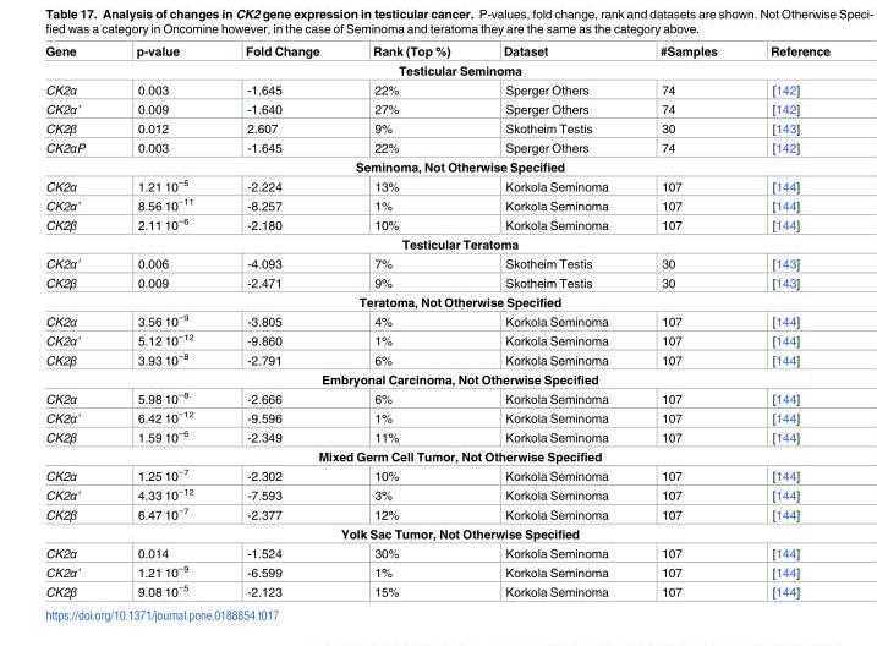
<table><thead><tr><td>Gene</td><td>p-value</td><td>Fold Change</td><td>Rank (Top %)</td><td>Dataset</td><td>#Samples</td><td>Reference</td></tr></thead><tbody><tr><td colspan="7">Testicular Seminoma</td></tr><tr><td>CK2α</td><td>0.003</td><td>-1.645</td><td>22%</td><td>Sperger Others</td><td>74</td><td>[142]</td></tr><tr><td>CK2α’</td><td>0.009</td><td>-1.640</td><td>27%</td><td>Sperger Others</td><td>74</td><td>[142]</td></tr><tr><td>CK2β</td><td>0.012</td><td>2.607</td><td>9%</td><td>Skotheim Testis</td><td>30</td><td>[143]</td></tr><tr><td>CK2αP</td><td>0.003</td><td>-1.645</td><td>22%</td><td>Sperger Others</td><td>74</td><td>[142]</td></tr><tr><td colspan="7">Seminoma, Not Otherwise Specified</td></tr><tr><td>CK2α</td><td>1.21 10<sup>−5</sup></td><td>-2.224</td><td>13%</td><td>Korkola Seminoma</td><td>107</td><td>[144]</td></tr><tr><td>CK2α’</td><td>8.56 10<sup>−11</sup></td><td>-8.257</td><td>1%</td><td>Korkola Seminoma</td><td>107</td><td>[144]</td></tr><tr><td>CK2β</td><td>2.11 10<sup>−6</sup></td><td>-2.180</td><td>10%</td><td>Korkola Seminoma</td><td>107</td><td>[144]</td></tr><tr><td colspan="7">Testicular Teratoma</td></tr><tr><td>CK2α’</td><td>0.006</td><td>-4.093</td><td>7%</td><td>Skotheim Testis</td><td>30</td><td>[143]</td></tr><tr><td>CK2β</td><td>0.009</td><td>-2.471</td><td>9%</td><td>Skotheim Testis</td><td>30</td><td>[143]</td></tr><tr><td colspan="7">Teratoma, Not Otherwise Specified</td></tr><tr><td>CK2α</td><td>3.56 10<sup>−9</sup></td><td>-3.805</td><td>4%</td><td>Korkola Seminoma</td><td>107</td><td>[144]</td></tr><tr><td>CK2α’</td><td>5.12 10<sup>−12</sup></td><td>-9.860</td><td>1%</td><td>Korkola Seminoma</td><td>107</td><td>[144]</td></tr><tr><td>CK2β</td><td>3.93 10<sup>−8</sup></td><td>-2.791</td><td>6%</td><td>Korkola Seminoma</td><td>107</td><td>[144]</td></tr><tr><td colspan="7">Embryonal Carcinoma, Not Otherwise Specified</td></tr><tr><td>CK2α</td><td>5.98 10<sup>−8</sup></td><td>-2.666</td><td>6%</td><td>Korkola Seminoma</td><td>107</td><td>[144]</td></tr><tr><td>CK2α’</td><td>6.42 10<sup>−12</sup></td><td>-9.596</td><td>1%</td><td>Korkola Seminoma</td><td>107</td><td>[144]</td></tr><tr><td>CK2β</td><td>1.59 10<sup>−6</sup></td><td>-2.349</td><td>11%</td><td>Korkola Seminoma</td><td>107</td><td>[144]</td></tr><tr><td colspan="7">Mixed Germ Cell Tumor, Not Otherwise Specified</td></tr><tr><td>CK2α</td><td>1.25 10<sup>−7</sup></td><td>-2.302</td><td>10%</td><td>Korkola Seminoma</td><td>107</td><td>[144]</td></tr><tr><td>CK2α’</td><td>4.33 10<sup>−12</sup></td><td>-7.593</td><td>3%</td><td>Korkola Seminoma</td><td>107</td><td>[144]</td></tr><tr><td>CK2β</td><td>6.47 10<sup>−7</sup></td><td>-2.377</td><td>12%</td><td>Korkola Seminoma</td><td>107</td><td>[144]</td></tr><tr><td colspan="7">Yolk Sac Tumor, Not Otherwise Specified</td></tr><tr><td>CK2α</td><td>0.014</td><td>-1.524</td><td>30%</td><td>Korkola Seminoma</td><td>107</td><td>[144]</td></tr><tr><td>CK2α’</td><td>1.21 10<sup>−9</sup></td><td>-6.599</td><td>1%</td><td>Korkola Seminoma</td><td>107</td><td>[144]</td></tr><tr><td>CK2β</td><td>9.08 10<sup>−5</sup></td><td>-2.123</td><td>15%</td><td>Korkola Seminoma</td><td>107</td><td>[144]</td></tr></tbody></table>